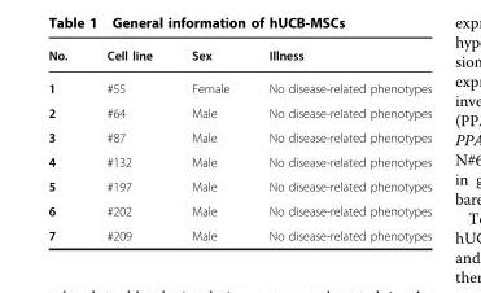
<table><thead><tr><td>No.</td><td>Cell line</td><td>Sex</td><td>Illness</td></tr></thead><tbody><tr><td>1</td><td>#55</td><td>Female</td><td>No disease-related phenotypes</td></tr><tr><td>2</td><td>#64</td><td>Male</td><td>No disease-related phenotypes</td></tr><tr><td>3</td><td>#87</td><td>Male</td><td>No disease-related phenotypes</td></tr><tr><td>4</td><td>#132</td><td>Male</td><td>No disease-related phenotypes</td></tr><tr><td>5</td><td>#197</td><td>Male</td><td>No disease-related phenotypes</td></tr><tr><td>6</td><td>#202</td><td>Male</td><td>No disease-related phenotypes</td></tr><tr><td>7</td><td>#209</td><td>Male</td><td>No disease-related phenotypes</td></tr></tbody></table>